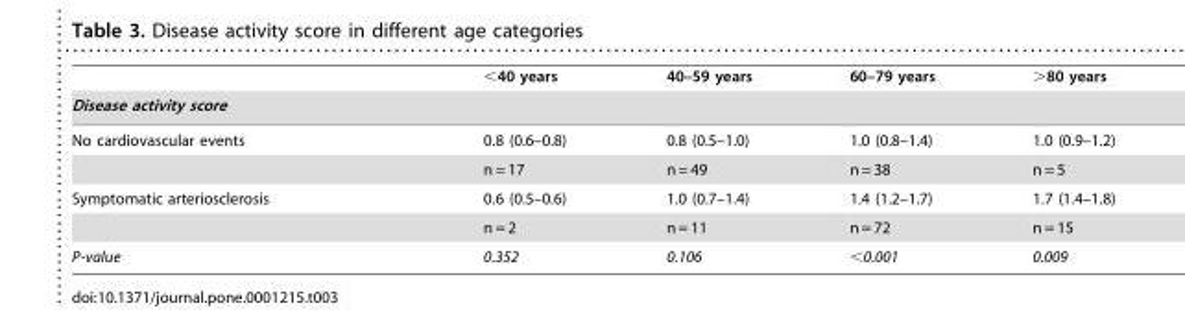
<table><thead><tr><td></td><td>&lt;40 years</td><td>40–59 years</td><td>60–79 years</td><td>&gt;80 years</td></tr><tr><td colspan="5">Disease activity score</td></tr></thead><tbody><tr><td rowspan="2">No cardiovascular events</td><td>0.8 (0.6–0.8)</td><td>0.8 (0.5–1.0)</td><td>1.0 (0.8–1.4)</td><td>1.0 (0.9–1.2)</td></tr><tr><td>n = 17</td><td>n = 49</td><td>n = 38</td><td>n = 5</td></tr><tr><td rowspan="2">Symptomatic arteriosclerosis</td><td>0.6 (0.5–0.6)</td><td>1.0 (0.7–1.4)</td><td>1.4 (1.2–1.7)</td><td>1.7 (1.4–1.8)</td></tr><tr><td>n = 2</td><td>n = 11</td><td>n = 72</td><td>n = 15</td></tr><tr><td>P-value</td><td>0.352</td><td>0.106</td><td>&lt;0.001</td><td>0.009</td></tr></tbody></table>